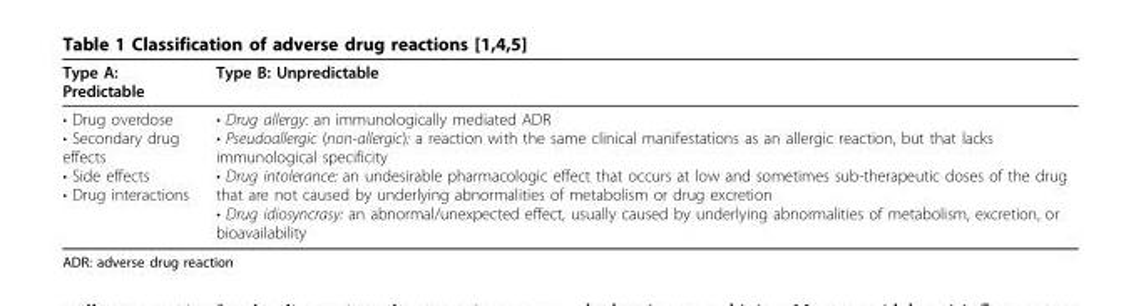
<table><thead><tr><td>Type A: Predictable</td><td>Type B: Unpredictable</td></tr></thead><tbody><tr><td>• Drug overdose • Secondary drug effects • Side effects • Drug interactions</td><td>• Drug allergy: an immunologically mediated ADR • Pseudoallergic (non-allergic): a reaction with the same clinical manifestations as an allergic reaction, but that lacks immunological specificity • Drug intolerance: an undesirable pharmacologic effect that occurs at low and sometimes sub-therapeutic doses of the drug that are not caused by underlying abnormalities of metabolism or drug excretion • Drug idiosyncrasy: an abnormal/unexpected effect, usually caused by underlying abnormalities of metabolism, excretion, or bioavailability</td></tr></tbody></table>